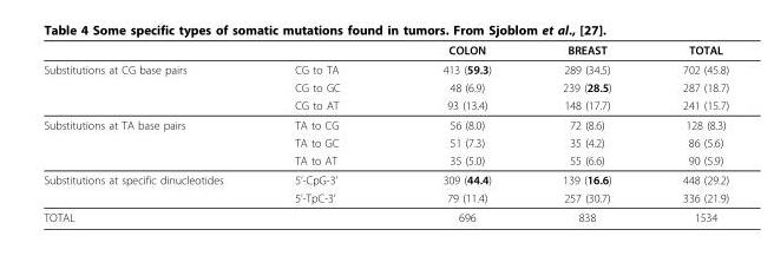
<table><thead><tr><td></td><td></td><td>COLON</td><td>BREAST</td><td>TOTAL</td></tr></thead><tbody><tr><td rowspan="3">Substitutions at CG base pairs</td><td>CG to TA</td><td>413 (59.3)</td><td>289 (34.5)</td><td>702 (45.8)</td></tr><tr><td>CG to GC</td><td>48 (6.9)</td><td>239 (28.5)</td><td>287 (18.7)</td></tr><tr><td>CG to AT</td><td>93 (13.4)</td><td>148 (17.7)</td><td>241 (15.7)</td></tr><tr><td rowspan="3">Substitutions at TA base pairs</td><td>TA to CG</td><td>56 (8.0)</td><td>72 (8.6)</td><td>128 (8.3)</td></tr><tr><td>TA to GC</td><td>51 (7.3)</td><td>35 (4.2)</td><td>86 (5.6)</td></tr><tr><td>TA to AT</td><td>35 (5.0)</td><td>55 (6.6)</td><td>90 (5.9)</td></tr><tr><td rowspan="2">Substitutions at specific dinucleotides</td><td>5’-CpG-3’</td><td>309 (44.4)</td><td>139 (16.6)</td><td>448 (29.2)</td></tr><tr><td>5’-TpC-3’</td><td>79 (11.4)</td><td>257 (30.7)</td><td>336 (21.9)</td></tr><tr><td>TOTAL</td><td></td><td>696</td><td>838</td><td>1534</td></tr></tbody></table>